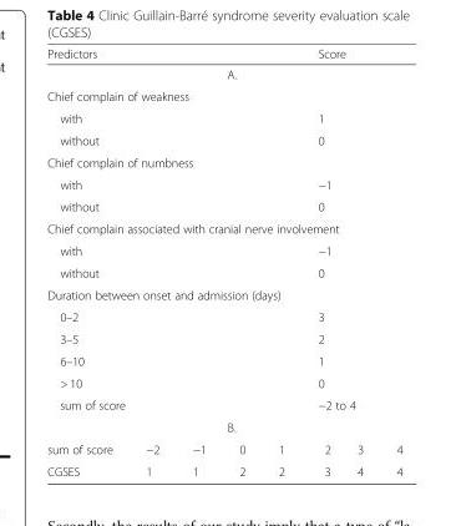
<table><thead><tr><td colspan="5">Predictors</td><td colspan="3">Score</td></tr></thead><tbody><tr><td colspan="8">A.</td></tr><tr><td colspan="8">Chief complain of weakness</td></tr><tr><td colspan="5">with</td><td colspan="3">1</td></tr><tr><td colspan="5">without</td><td colspan="3">0</td></tr><tr><td colspan="8">Chief complain of numbness</td></tr><tr><td colspan="5">with</td><td colspan="3">−1</td></tr><tr><td colspan="5">without</td><td colspan="3">0</td></tr><tr><td colspan="8">Chief complain associated with cranial nerve involvement</td></tr><tr><td colspan="5">with</td><td colspan="3">−1</td></tr><tr><td colspan="5">without</td><td colspan="3">0</td></tr><tr><td colspan="8">Duration between onset and admission (days)</td></tr><tr><td colspan="5">0–2</td><td colspan="3">3</td></tr><tr><td colspan="5">3–5</td><td colspan="3">2</td></tr><tr><td colspan="5">6–10</td><td colspan="3">1</td></tr><tr><td colspan="5">&gt; 10</td><td colspan="3">0</td></tr><tr><td colspan="5">sum of score</td><td colspan="3">−2 to 4</td></tr><tr><td colspan="8">B.</td></tr><tr><td>sum of score</td><td>−2</td><td>−1</td><td>0</td><td>1</td><td>2</td><td>3</td><td>4</td></tr><tr><td>CGSES</td><td>1</td><td>1</td><td>2</td><td>2</td><td>3</td><td>4</td><td>4</td></tr></tbody></table>